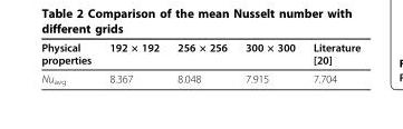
<table><thead><tr><td>Physical properties</td><td>192 × 192</td><td>256 × 256</td><td>300 × 300</td><td>Literature [20]</td></tr></thead><tbody><tr><td>Nu<sub>avg</sub></td><td>8.367</td><td>8.048</td><td>7.915</td><td>7.704</td></tr></tbody></table>